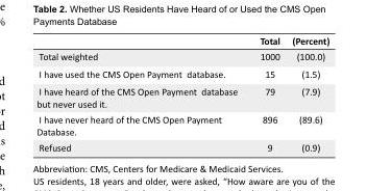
<table><thead><tr><td></td><td>Total</td><td>(Percent)</td></tr></thead><tbody><tr><td>Total weighted</td><td>1000</td><td>(100.0)</td></tr><tr><td>I have used the CMS Open Payment database.</td><td>15</td><td>(1.5)</td></tr><tr><td>I have heard of the CMS Open Payment database but never used it.</td><td>79</td><td>(7.9)</td></tr><tr><td>I have never heard of the CMS Open Payment Database.</td><td>896</td><td>(89.6)</td></tr><tr><td>Refused</td><td>9</td><td>(0.9)</td></tr></tbody></table>